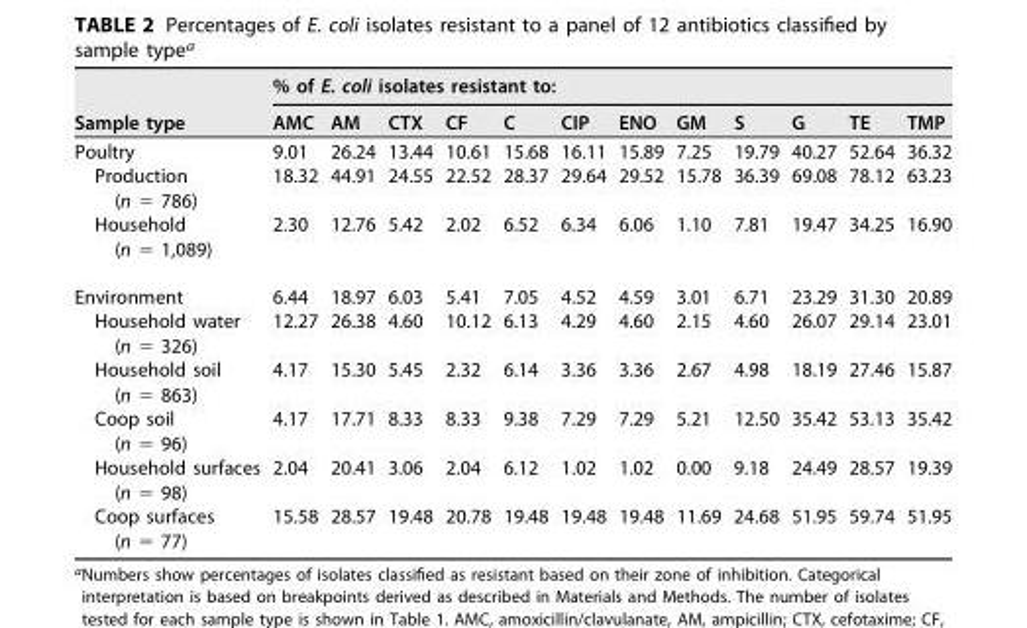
<table><thead><tr><td rowspan="2">Sample type</td><td colspan="12">% of E. coli isolates resistant to:</td></tr><tr><td>AMC</td><td>AM</td><td>CTX</td><td>CF</td><td>C</td><td>CIP</td><td>ENO</td><td>GM</td><td>S</td><td>G</td><td>TE</td><td>TMP</td></tr></thead><tbody><tr><td>Poultry</td><td>9.01</td><td>26.24</td><td>13.44</td><td>10.61</td><td>15.68</td><td>16.11</td><td>15.89</td><td>7.25</td><td>19.79</td><td>40.27</td><td>52.64</td><td>36.32</td></tr><tr><td>Production (n = 786)</td><td>18.32</td><td>44.91</td><td>24.55</td><td>22.52</td><td>28.37</td><td>29.64</td><td>29.52</td><td>15.78</td><td>36.39</td><td>69.08</td><td>78.12</td><td>63.23</td></tr><tr><td>Household (n = 1,089)</td><td>2.30</td><td>12.76</td><td>5.42</td><td>2.02</td><td>6.52</td><td>6.34</td><td>6.06</td><td>1.10</td><td>7.81</td><td>19.47</td><td>34.25</td><td>16.90</td></tr><tr><td>Environment</td><td>6.44</td><td>18.97</td><td>6.03</td><td>5.41</td><td>7.05</td><td>4.52</td><td>4.59</td><td>3.01</td><td>6.71</td><td>23.29</td><td>31.30</td><td>20.89</td></tr><tr><td>Household water (n = 326)</td><td>12.27</td><td>26.38</td><td>4.60</td><td>10.12</td><td>6.13</td><td>4.29</td><td>4.60</td><td>2.15</td><td>4.60</td><td>26.07</td><td>29.14</td><td>23.01</td></tr><tr><td>Household soil (n = 863)</td><td>4.17</td><td>15.30</td><td>5.45</td><td>2.32</td><td>6.14</td><td>3.36</td><td>3.36</td><td>2.67</td><td>4.98</td><td>18.19</td><td>27.46</td><td>15.87</td></tr><tr><td>Coop soil (n = 96)</td><td>4.17</td><td>17.71</td><td>8.33</td><td>8.33</td><td>9.38</td><td>7.29</td><td>7.29</td><td>5.21</td><td>12.50</td><td>35.42</td><td>53.13</td><td>35.42</td></tr><tr><td>Household surfaces (n = 98)</td><td>2.04</td><td>20.41</td><td>3.06</td><td>2.04</td><td>6.12</td><td>1.02</td><td>1.02</td><td>0.00</td><td>9.18</td><td>24.49</td><td>28.57</td><td>19.39</td></tr><tr><td>Coop surfaces (n = 77)</td><td>15.58</td><td>28.57</td><td>19.48</td><td>20.78</td><td>19.48</td><td>19.48</td><td>19.48</td><td>11.69</td><td>24.68</td><td>51.95</td><td>59.74</td><td>51.95</td></tr></tbody></table>